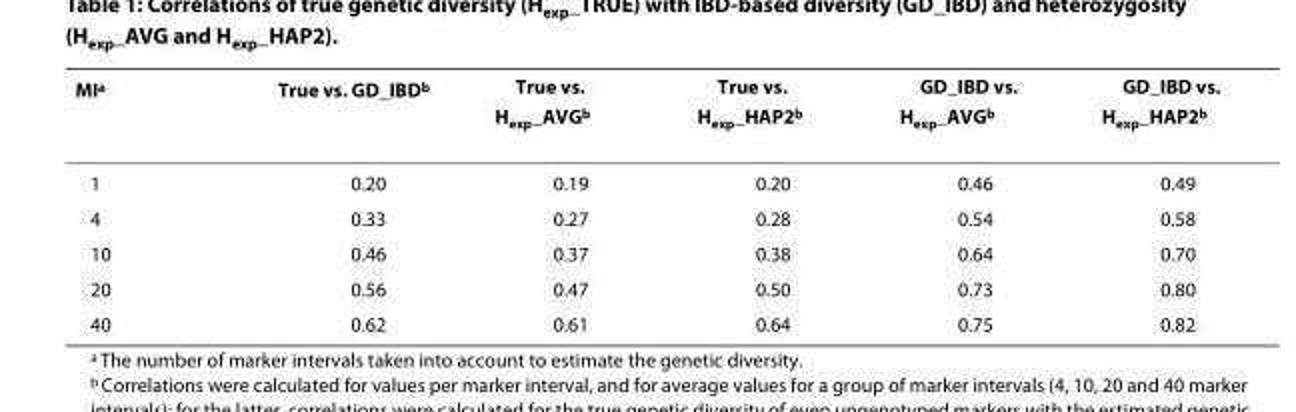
<table><thead><tr><td>MI<sup>a</sup></td><td>True vs. GD_IBD<sup>b</sup></td><td>True vs. Hexp_AVGb</td><td>True vs. Hexp_HAP2b</td><td>GD_IBD vs. Hexp_AVGb</td><td>GD_IBD vs. Hexp_HAP2b</td></tr></thead><tbody><tr><td>1</td><td>0.20</td><td>0.19</td><td>0.20</td><td>0.46</td><td>0.49</td></tr><tr><td>4</td><td>0.33</td><td>0.27</td><td>0.28</td><td>0.54</td><td>0.58</td></tr><tr><td>10</td><td>0.46</td><td>0.37</td><td>0.38</td><td>0.64</td><td>0.70</td></tr><tr><td>20</td><td>0.56</td><td>0.47</td><td>0.50</td><td>0.73</td><td>0.80</td></tr><tr><td>40</td><td>0.62</td><td>0.61</td><td>0.64</td><td>0.75</td><td>0.82</td></tr></tbody></table>